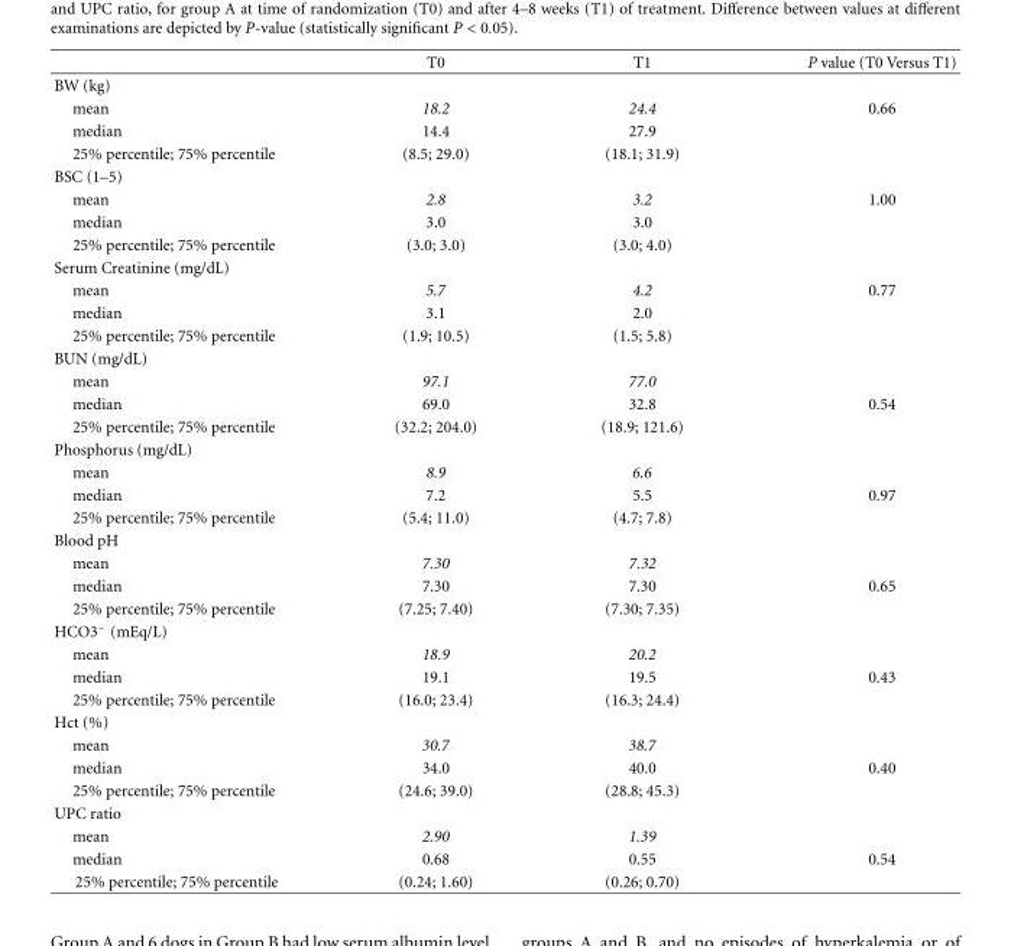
<table><thead><tr><td></td><td>T0</td><td>T1</td><td>P value (T0 Versus T1)</td></tr></thead><tbody><tr><td colspan="4">BW (kg)</td></tr><tr><td>mean</td><td>18.2</td><td>24.4</td><td>0.66</td></tr><tr><td>median</td><td>14.4</td><td>27.9</td><td></td></tr><tr><td>25% percentile; 75% percentile</td><td>(8.5; 29.0)</td><td>(18.1; 31.9)</td><td></td></tr><tr><td colspan="4">BSC (1–5)</td></tr><tr><td>mean</td><td>2.8</td><td>3.2</td><td>1.00</td></tr><tr><td>median</td><td>3.0</td><td>3.0</td><td></td></tr><tr><td>25% percentile; 75% percentile</td><td>(3.0; 3.0)</td><td>(3.0; 4.0)</td><td></td></tr><tr><td colspan="4">Serum Creatinine (mg/dL)</td></tr><tr><td>mean</td><td>5.7</td><td>4.2</td><td>0.77</td></tr><tr><td>median</td><td>3.1</td><td>2.0</td><td></td></tr><tr><td>25% percentile; 75% percentile</td><td>(1.9; 10.5)</td><td>(1.5; 5.8)</td><td></td></tr><tr><td colspan="4">BUN (mg/dL)</td></tr><tr><td>mean</td><td>97.1</td><td>77.0</td><td></td></tr><tr><td>median</td><td>69.0</td><td>32.8</td><td>0.54</td></tr><tr><td>25% percentile; 75% percentile</td><td>(32.2; 204.0)</td><td>(18.9; 121.6)</td><td></td></tr><tr><td colspan="4">Phosphorus (mg/dL)</td></tr><tr><td>mean</td><td>8.9</td><td>6.6</td><td></td></tr><tr><td>median</td><td>7.2</td><td>5.5</td><td>0.97</td></tr><tr><td>25% percentile; 75% percentile</td><td>(5.4; 11.0)</td><td>(4.7; 7.8)</td><td></td></tr><tr><td colspan="4">Blood pH</td></tr><tr><td>mean</td><td>7.30</td><td>7.32</td><td></td></tr><tr><td>median</td><td>7.30</td><td>7.30</td><td>0.65</td></tr><tr><td>25% percentile; 75% percentile</td><td>(7.25; 7.40)</td><td>(7.30; 7.35)</td><td></td></tr><tr><td colspan="4">HCO3<sup>−</sup> (mEq/L)</td></tr><tr><td>mean</td><td>18.9</td><td>20.2</td><td></td></tr><tr><td>median</td><td>19.1</td><td>19.5</td><td>0.43</td></tr><tr><td>25% percentile; 75% percentile</td><td>(16.0; 23.4)</td><td>(16.3; 24.4)</td><td></td></tr><tr><td colspan="4">Hct (%)</td></tr><tr><td>mean</td><td>30.7</td><td>38.7</td><td></td></tr><tr><td>median</td><td>34.0</td><td>40.0</td><td>0.40</td></tr><tr><td>25% percentile; 75% percentile</td><td>(24.6; 39.0)</td><td>(28.8; 45.3)</td><td></td></tr><tr><td colspan="4">UPC ratio</td></tr><tr><td>mean</td><td>2.90</td><td>1.39</td><td></td></tr><tr><td>median</td><td>0.68</td><td>0.55</td><td>0.54</td></tr><tr><td>25% percentile; 75% percentile</td><td>(0.24; 1.60)</td><td>(0.26; 0.70)</td><td></td></tr></tbody></table>